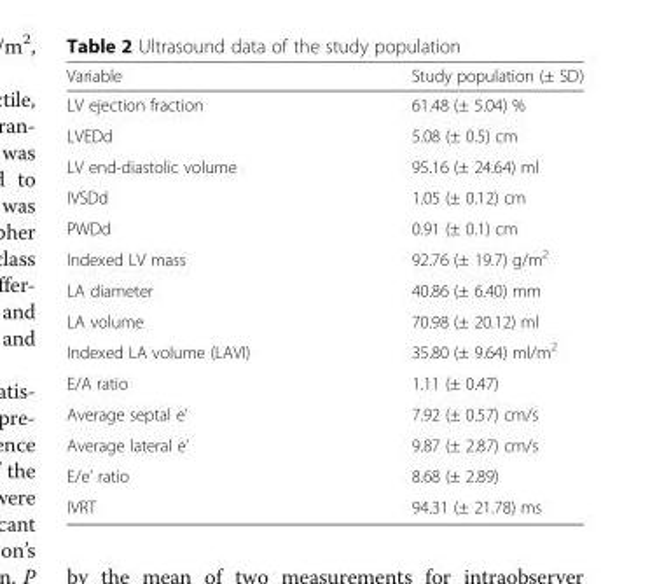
<table><thead><tr><td>Variable</td><td>Study population (± SD)</td></tr></thead><tbody><tr><td>LV ejection fraction</td><td>61.48 (± 5.04) %</td></tr><tr><td>LVEDd</td><td>5.08 (± 0.5) cm</td></tr><tr><td>LV end-diastolic volume</td><td>95.16 (± 24.64) ml</td></tr><tr><td>IVSDd</td><td>1.05 (± 0.12) cm</td></tr><tr><td>PWDd</td><td>0.91 (± 0.1) cm</td></tr><tr><td>Indexed LV mass</td><td>92.76 (± 19.7) g/m<sup>2</sup></td></tr><tr><td>LA diameter</td><td>40.86 (± 6.40) mm</td></tr><tr><td>LA volume</td><td>70.98 (± 20.12) ml</td></tr><tr><td>Indexed LA volume (LAVI)</td><td>35.80 (± 9.64) ml/m<sup>2</sup></td></tr><tr><td>E/A ratio</td><td>1.11 (± 0.47)</td></tr><tr><td>Average septal e’</td><td>7.92 (± 0.57) cm/s</td></tr><tr><td>Average lateral e’</td><td>9.87 (± 2.87) cm/s</td></tr><tr><td>E/e’ ratio</td><td>8.68 (± 2.89)</td></tr><tr><td>IVRT</td><td>94.31 (± 21.78) ms</td></tr></tbody></table>